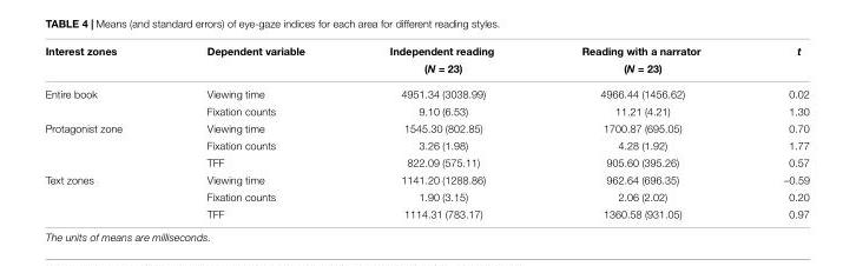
<table><thead><tr><td rowspan="2">Interest zones</td><td rowspan="2">Dependent variable</td><td rowspan="2">Independent reading (N = 23)</td><td rowspan="2">Reading with a narrator (N = 23)</td><td rowspan="2">t</td></tr><tr></tr></thead><tbody><tr><td rowspan="2">Entire book</td><td>Viewing time</td><td>4951.34 (3038.99)</td><td>4966.44 (1456.62)</td><td>0.02</td></tr><tr><td>Fixation counts</td><td>9.10 (6.53)</td><td>11.21 (4.21)</td><td>1.30</td></tr><tr><td rowspan="3">Protagonist zone</td><td>Viewing time</td><td>1545.30 (802.85)</td><td>1700.87 (695.05)</td><td>0.70</td></tr><tr><td>Fixation counts</td><td>3.26 (1.98)</td><td>4.28 (1.92)</td><td>1.77</td></tr><tr><td>TFF</td><td>822.09 (575.11)</td><td>905.60 (395.26)</td><td>0.57</td></tr><tr><td rowspan="3">Text zones</td><td>Viewing time</td><td>1141.20 (1288.86)</td><td>962.64 (696.35)</td><td>–0.59</td></tr><tr><td>Fixation counts</td><td>1.90 (3.15)</td><td>2.06 (2.02)</td><td>0.20</td></tr><tr><td>TFF</td><td>1114.31 (783.17)</td><td>1360.58 (931.05)</td><td>0.97</td></tr></tbody></table>